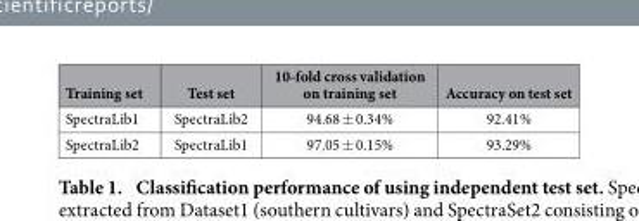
<table><thead><tr><td>Training set</td><td>Test set</td><td>10-fold cross validation on training set</td><td>Accuracy on test set</td></tr></thead><tbody><tr><td>SpectraLib1</td><td>SpectraLib2</td><td>94.68 ± 0.34%</td><td>92.41%</td></tr><tr><td>SpectraLib2</td><td>SpectraLib1</td><td>97.05 ± 0.15%</td><td>93.29%</td></tr></tbody></table>